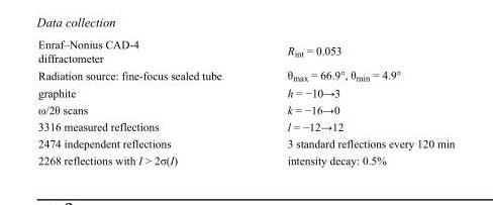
<table><tbody><tr><td>Enraf–Nonius CAD-4 diffractometer</td><td>R<sub>int</sub> = 0.053</td></tr><tr><td>Radiation source: fine-focus sealed tube</td><td>θ<sub>max</sub> = 66.9°, θ<sub>min</sub> = 4.9°</td></tr><tr><td>graphite</td><td>h = −10→3</td></tr><tr><td>ω/2θ scans</td><td>k = −16→0</td></tr><tr><td>3316 measured reflections</td><td>l = −12→12</td></tr><tr><td>2474 independent reflections</td><td>3 standard reflections every 120 min</td></tr><tr><td>2268 reflections with I &gt; 2σ(I)</td><td>intensity decay: 0.5%</td></tr></tbody></table>